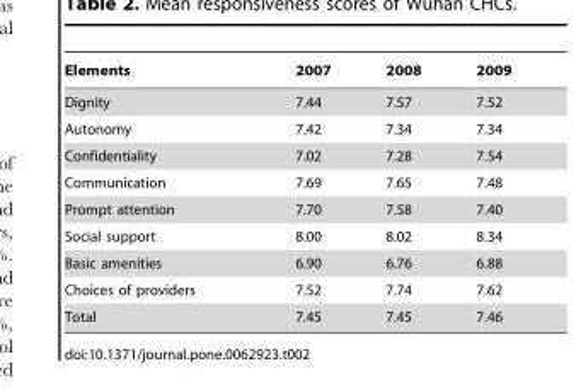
<table><thead><tr><td>Elements</td><td>2007</td><td>2008</td><td>2009</td></tr></thead><tbody><tr><td>Dignity</td><td>7.44</td><td>7.57</td><td>7.52</td></tr><tr><td>Autonomy</td><td>7.42</td><td>7.34</td><td>7.34</td></tr><tr><td>Confidentiality</td><td>7.02</td><td>7.28</td><td>7.54</td></tr><tr><td>Communication</td><td>7.69</td><td>7.65</td><td>7.48</td></tr><tr><td>Prompt attention</td><td>7.70</td><td>7.58</td><td>7.40</td></tr><tr><td>Social support</td><td>8.00</td><td>8.02</td><td>8.34</td></tr><tr><td>Basic amenities</td><td>6.90</td><td>6.76</td><td>6.88</td></tr><tr><td>Choices of providers</td><td>7.52</td><td>7.74</td><td>7.62</td></tr><tr><td>Total</td><td>7.45</td><td>7.45</td><td>7.46</td></tr></tbody></table>